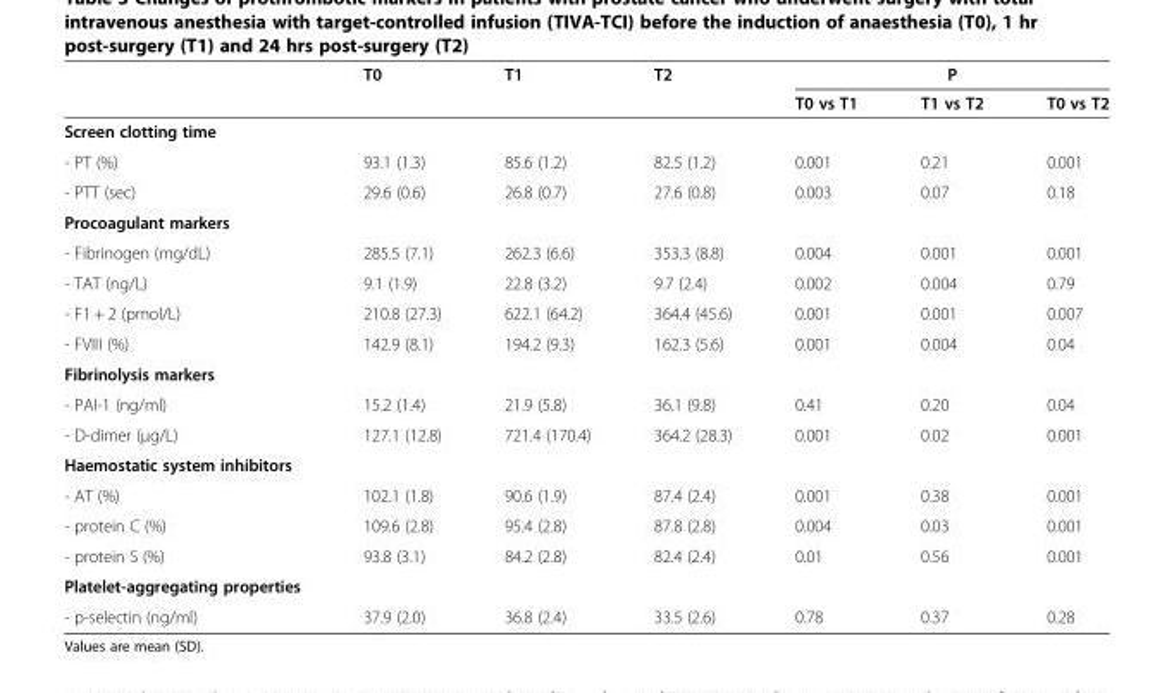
<table><thead><tr><td rowspan="2"></td><td rowspan="2">T0</td><td rowspan="2">T1</td><td rowspan="2">T2</td><td colspan="3">P</td></tr><tr><td>T0 vs T1</td><td>T1 vs T2</td><td>T0 vs T2</td></tr></thead><tbody><tr><td colspan="7">Screen clotting time</td></tr><tr><td>- PT (%)</td><td>93.1 (1.3)</td><td>85.6 (1.2)</td><td>82.5 (1.2)</td><td>0.001</td><td>0.21</td><td>0.001</td></tr><tr><td>- PTT (sec)</td><td>29.6 (0.6)</td><td>26.8 (0.7)</td><td>27.6 (0.8)</td><td>0.003</td><td>0.07</td><td>0.18</td></tr><tr><td colspan="7">Procoagulant markers</td></tr><tr><td>- Fibrinogen (mg/dL)</td><td>285.5 (7.1)</td><td>262.3 (6.6)</td><td>353.3 (8.8)</td><td>0.004</td><td>0.001</td><td>0.001</td></tr><tr><td>- TAT (ng/L)</td><td>9.1 (1.9)</td><td>22.8 (3.2)</td><td>9.7 (2.4)</td><td>0.002</td><td>0.004</td><td>0.79</td></tr><tr><td>- F1 + 2 (pmol/L)</td><td>210.8 (27.3)</td><td>622.1 (64.2)</td><td>364.4 (45.6)</td><td>0.001</td><td>0.001</td><td>0.007</td></tr><tr><td>- FVIII (%)</td><td>142.9 (8.1)</td><td>194.2 (9.3)</td><td>162.3 (5.6)</td><td>0.001</td><td>0.004</td><td>0.04</td></tr><tr><td colspan="7">Fibrinolysis markers</td></tr><tr><td>- PAI-1 (ng/ml)</td><td>15.2 (1.4)</td><td>21.9 (5.8)</td><td>36.1 (9.8)</td><td>0.41</td><td>0.20</td><td>0.04</td></tr><tr><td>- D-dimer (μg/L)</td><td>127.1 (12.8)</td><td>721.4 (170.4)</td><td>364.2 (28.3)</td><td>0.001</td><td>0.02</td><td>0.001</td></tr><tr><td colspan="7">Haemostatic system inhibitors</td></tr><tr><td>- AT (%)</td><td>102.1 (1.8)</td><td>90.6 (1.9)</td><td>87.4 (2.4)</td><td>0.001</td><td>0.38</td><td>0.001</td></tr><tr><td>- protein C (%)</td><td>109.6 (2.8)</td><td>95.4 (2.8)</td><td>87.8 (2.8)</td><td>0.004</td><td>0.03</td><td>0.001</td></tr><tr><td>- protein S (%)</td><td>93.8 (3.1)</td><td>84.2 (2.8)</td><td>82.4 (2.4)</td><td>0.01</td><td>0.56</td><td>0.001</td></tr><tr><td colspan="7">Platelet-aggregating properties</td></tr><tr><td>- p-selectin (ng/ml)</td><td>37.9 (2.0)</td><td>36.8 (2.4)</td><td>33.5 (2.6)</td><td>0.78</td><td>0.37</td><td>0.28</td></tr></tbody></table>